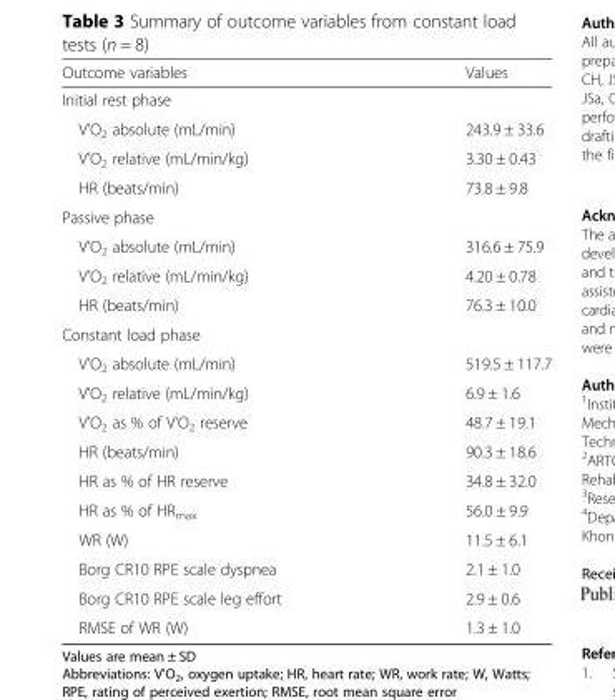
<table><thead><tr><td>Outcome variables</td><td>Values</td></tr></thead><tbody><tr><td colspan="2">Initial rest phase</td></tr><tr><td>V&#x27;O<sub>2</sub> absolute (mL/min)</td><td>243.9 ± 33.6</td></tr><tr><td>V&#x27;O<sub>2</sub> relative (mL/min/kg)</td><td>3.30 ± 0.43</td></tr><tr><td>HR (beats/min)</td><td>73.8 ± 9.8</td></tr><tr><td colspan="2">Passive phase</td></tr><tr><td>V&#x27;O<sub>2</sub> absolute (mL/min)</td><td>316.6 ± 75.9</td></tr><tr><td>V&#x27;O<sub>2</sub> relative (mL/min/kg)</td><td>4.20 ± 0.78</td></tr><tr><td>HR (beats/min)</td><td>76.3 ± 10.0</td></tr><tr><td colspan="2">Constant load phase</td></tr><tr><td>V&#x27;O<sub>2</sub> absolute (mL/min)</td><td>519.5 ± 117.7</td></tr><tr><td>V&#x27;O<sub>2</sub> relative (mL/min/kg)</td><td>6.9 ± 1.6</td></tr><tr><td>V&#x27;O<sub>2</sub> as % of V&#x27;O<sub>2</sub> reserve</td><td>48.7 ± 19.1</td></tr><tr><td>HR (beats/min)</td><td>90.3 ± 18.6</td></tr><tr><td>HR as % of HR reserve</td><td>34.8 ± 32.0</td></tr><tr><td>HR as % of HR<sub>max</sub></td><td>56.0 ± 9.9</td></tr><tr><td>WR (W)</td><td>11.5 ± 6.1</td></tr><tr><td>Borg CR10 RPE scale dyspnea</td><td>2.1 ± 1.0</td></tr><tr><td>Borg CR10 RPE scale leg effort</td><td>2.9 ± 0.6</td></tr><tr><td>RMSE of WR (W)</td><td>1.3 ± 1.0</td></tr></tbody></table>